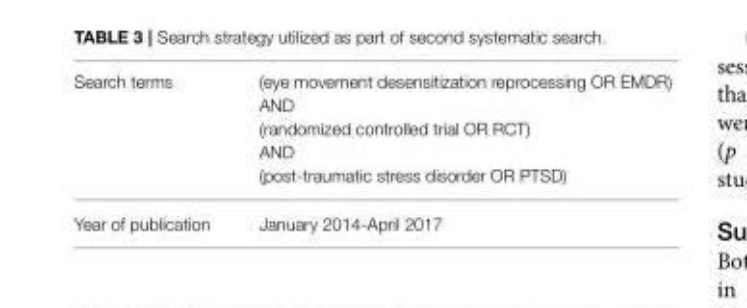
<table><tbody><tr><td>Search terms</td><td>(eye movement desensitization reprocessing OR EMDR) AND (randomized controlled trial OR RCT) AND (post-traumatic stress disorder OR PTSD)</td></tr><tr><td>Year of publication</td><td>January 2014-April 2017</td></tr></tbody></table>